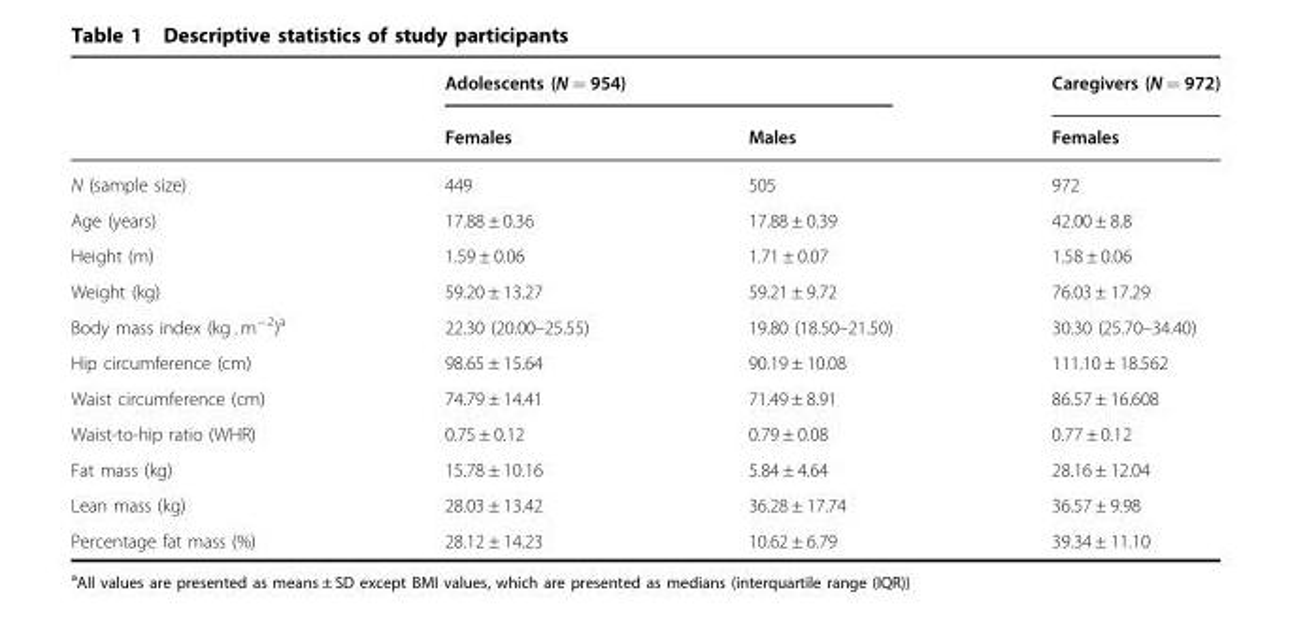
<table><thead><tr><td rowspan="2"></td><td colspan="2">Adolescents (N = 954)</td><td rowspan="2">Caregivers (N = 972) Females</td></tr><tr><td>Females</td><td>Males</td></tr></thead><tbody><tr><td>N (sample size)</td><td>449</td><td>505</td><td>972</td></tr><tr><td>Age (years)</td><td>17.88 ± 0.36</td><td>17.88 ± 0.39</td><td>42.00 ± 8.8</td></tr><tr><td>Height (m)</td><td>1.59 ± 0.06</td><td>1.71 ± 0.07</td><td>1.58 ± 0.06</td></tr><tr><td>Weight (kg)</td><td>59.20 ± 13.27</td><td>59.21 ± 9.72</td><td>76.03 ± 17.29</td></tr><tr><td>Body mass index (kg . m<sup>−2</sup>)<sup>a</sup></td><td>22.30 (20.00–25.55)</td><td>19.80 (18.50–21.50)</td><td>30.30 (25.70–34.40)</td></tr><tr><td>Hip circumference (cm)</td><td>98.65 ± 15.64</td><td>90.19 ± 10.08</td><td>111.10 ± 18.562</td></tr><tr><td>Waist circumference (cm)</td><td>74.79 ± 14.41</td><td>71.49 ± 8.91</td><td>86.57 ± 16.608</td></tr><tr><td>Waist-to-hip ratio (WHR)</td><td>0.75 ± 0.12</td><td>0.79 ± 0.08</td><td>0.77 ± 0.12</td></tr><tr><td>Fat mass (kg)</td><td>15.78 ± 10.16</td><td>5.84 ± 4.64</td><td>28.16 ± 12.04</td></tr><tr><td>Lean mass (kg)</td><td>28.03 ± 13.42</td><td>36.28 ± 17.74</td><td>36.57 ± 9.98</td></tr><tr><td>Percentage fat mass (%)</td><td>28.12 ± 14.23</td><td>10.62 ± 6.79</td><td>39.34 ± 11.10</td></tr></tbody></table>